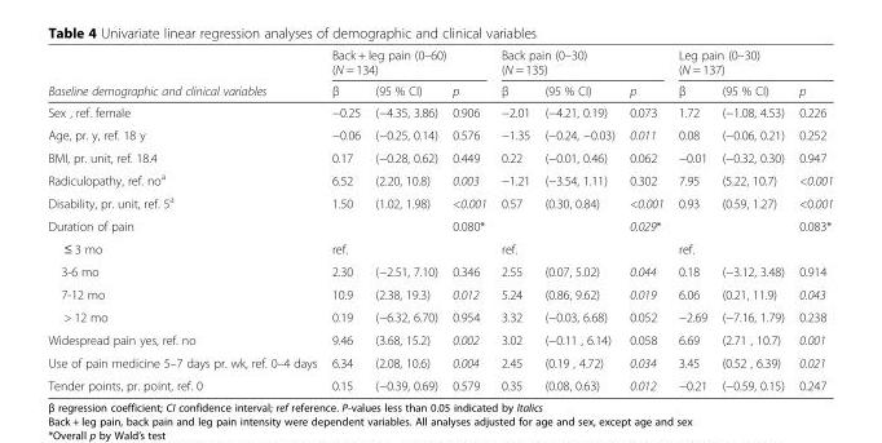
<table><thead><tr><td rowspan="3">Baseline demographic and clinical variables</td><td rowspan="2" colspan="3">Back + leg pain (0–60) (N = 134)</td><td rowspan="2" colspan="3">Back pain (0–30) (N = 135)</td><td rowspan="2" colspan="3">Leg pain (0–30) (N = 137)</td></tr><tr></tr><tr><td>β</td><td>(95 % CI)</td><td>p</td><td>β</td><td>(95 % CI)</td><td>p</td><td>β</td><td>(95 % CI)</td><td>p</td></tr></thead><tbody><tr><td>Sex , ref. female</td><td>−0.25</td><td>(−4.35, 3.86)</td><td>0.906</td><td>−2.01</td><td>(−4.21, 0.19)</td><td>0.073</td><td>1.72</td><td>(−1.08, 4.53)</td><td>0.226</td></tr><tr><td>Age, pr. y, ref. 18 y</td><td>−0.06</td><td>(−0.25, 0.14)</td><td>0.576</td><td>−1.35</td><td>(−0.24, −0.03)</td><td>0.011</td><td>0.08</td><td>(−0.06, 0.21)</td><td>0.252</td></tr><tr><td>BMI, pr. unit, ref. 18.4</td><td>0.17</td><td>(−0.28, 0.62)</td><td>0.449</td><td>0.22</td><td>(−0.01, 0.46)</td><td>0.062</td><td>−0.01</td><td>(−0.32, 0.30)</td><td>0.947</td></tr><tr><td>Radiculopathy, ref. no<sup>a</sup></td><td>6.52</td><td>(2.20, 10.8)</td><td>0.003</td><td>−1.21</td><td>(−3.54, 1.11)</td><td>0.302</td><td>7.95</td><td>(5.22, 10.7)</td><td>&lt;0.001</td></tr><tr><td>Disability, pr. unit, ref. 5<sup>a</sup></td><td>1.50</td><td>(1.02, 1.98)</td><td>&lt;0.001</td><td>0.57</td><td>(0.30, 0.84)</td><td>&lt;0.001</td><td>0.93</td><td>(0.59, 1.27)</td><td>&lt;0.001</td></tr><tr><td>Duration of pain</td><td></td><td></td><td>0.080*</td><td></td><td></td><td>0.029*</td><td></td><td></td><td>0.083*</td></tr><tr><td>≤ 3 mo</td><td>ref.</td><td></td><td></td><td>ref.</td><td></td><td></td><td>ref.</td><td></td><td></td></tr><tr><td>3-6 mo</td><td>2.30</td><td>(−2.51, 7.10)</td><td>0.346</td><td>2.55</td><td>(0.07, 5.02)</td><td>0.044</td><td>0.18</td><td>(−3.12, 3.48)</td><td>0.914</td></tr><tr><td>7-12 mo</td><td>10.9</td><td>(2.38, 19.3)</td><td>0.012</td><td>5.24</td><td>(0.86, 9.62)</td><td>0.019</td><td>6.06</td><td>(0.21, 11.9)</td><td>0.043</td></tr><tr><td>&gt; 12 mo</td><td>0.19</td><td>(−6.32, 6.70)</td><td>0.954</td><td>3.32</td><td>(−0.03, 6.68)</td><td>0.052</td><td>−2.69</td><td>(−7.16, 1.79)</td><td>0.238</td></tr><tr><td>Widespread pain yes, ref. no</td><td>9.46</td><td>(3.68, 15.2)</td><td>0.002</td><td>3.02</td><td>(−0.11 , 6.14)</td><td>0.058</td><td>6.69</td><td>(2.71 , 10.7)</td><td>0.001</td></tr><tr><td>Use of pain medicine 5–7 days pr. wk, ref. 0–4 days</td><td>6.34</td><td>(2.08, 10.6)</td><td>0.004</td><td>2.45</td><td>(0.19 , 4.72)</td><td>0.034</td><td>3.45</td><td>(0.52 , 6.39)</td><td>0.021</td></tr><tr><td>Tender points, pr. point, ref. 0</td><td>0.15</td><td>(−0.39, 0.69)</td><td>0.579</td><td>0.35</td><td>(0.08, 0.63)</td><td>0.012</td><td>−0.21</td><td>(−0.59, 0.15)</td><td>0.247</td></tr></tbody></table>